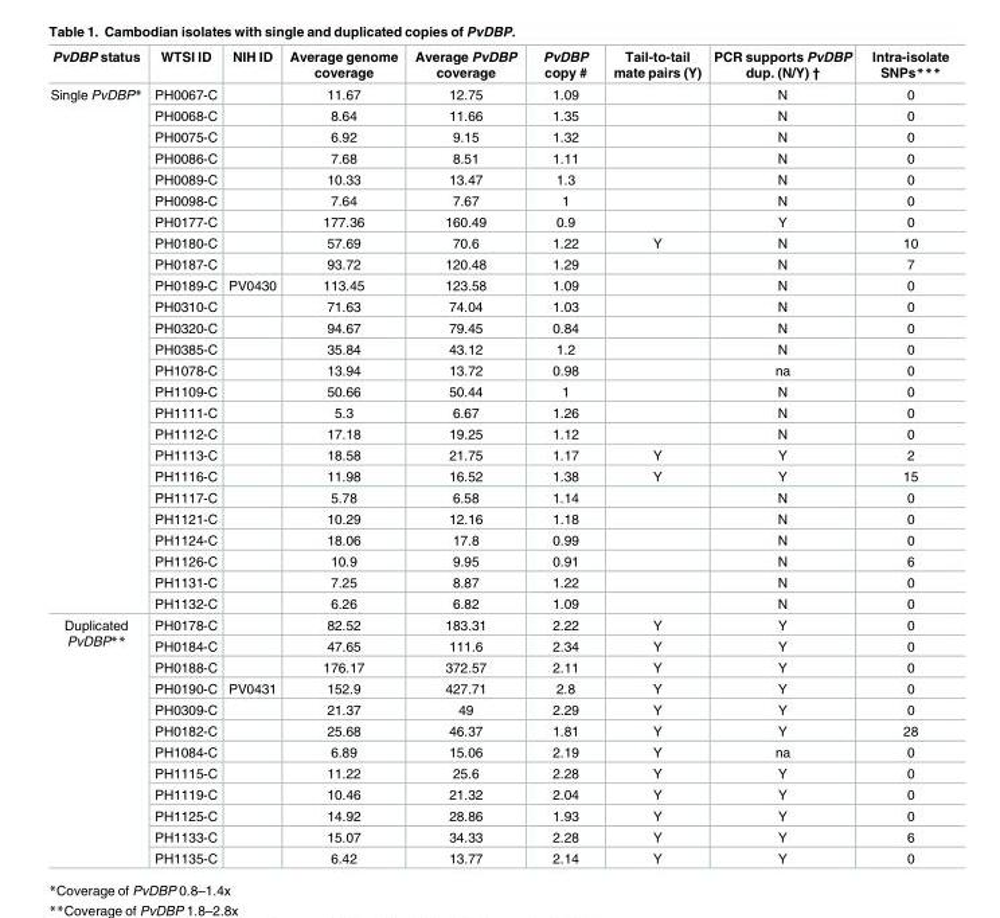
<table><thead><tr><td>PvDBP status</td><td>WTSI ID</td><td>NIH ID</td><td>Average genome coverage</td><td>Average PvDBP coverage</td><td>PvDBP copy #</td><td>Tail-to-tail mate pairs (Y)</td><td>PCR supports PvDBP dup. (N/Y) †</td><td>Intra-isolate SNPs***</td></tr></thead><tbody><tr><td rowspan="25">Single PvDBP*</td><td>PH0067-C</td><td></td><td>11.67</td><td>12.75</td><td>1.09</td><td></td><td>N</td><td>0</td></tr><tr><td>PH0068-C</td><td></td><td>8.64</td><td>11.66</td><td>1.35</td><td></td><td>N</td><td>0</td></tr><tr><td>PH0075-C</td><td></td><td>6.92</td><td>9.15</td><td>1.32</td><td></td><td>N</td><td>0</td></tr><tr><td>PH0086-C</td><td></td><td>7.68</td><td>8.51</td><td>1.11</td><td></td><td>N</td><td>0</td></tr><tr><td>PH0089-C</td><td></td><td>10.33</td><td>13.47</td><td>1.3</td><td></td><td>N</td><td>0</td></tr><tr><td>PH0098-C</td><td></td><td>7.64</td><td>7.67</td><td>1</td><td></td><td>N</td><td>0</td></tr><tr><td>PH0177-C</td><td></td><td>177.36</td><td>160.49</td><td>0.9</td><td></td><td>Y</td><td>0</td></tr><tr><td>PH0180-C</td><td></td><td>57.69</td><td>70.6</td><td>1.22</td><td>Y</td><td>N</td><td>10</td></tr><tr><td>PH0187-C</td><td></td><td>93.72</td><td>120.48</td><td>1.29</td><td></td><td>N</td><td>7</td></tr><tr><td>PH0189-C</td><td>PV0430</td><td>113.45</td><td>123.58</td><td>1.09</td><td></td><td>N</td><td>0</td></tr><tr><td>PH0310-C</td><td></td><td>71.63</td><td>74.04</td><td>1.03</td><td></td><td>N</td><td>0</td></tr><tr><td>PH0320-C</td><td></td><td>94.67</td><td>79.45</td><td>0.84</td><td></td><td>N</td><td>0</td></tr><tr><td>PH0385-C</td><td></td><td>35.84</td><td>43.12</td><td>1.2</td><td></td><td>N</td><td>0</td></tr><tr><td>PH1078-C</td><td></td><td>13.94</td><td>13.72</td><td>0.98</td><td></td><td>na</td><td>0</td></tr><tr><td>PH1109-C</td><td></td><td>50.66</td><td>50.44</td><td>1</td><td></td><td>N</td><td>0</td></tr><tr><td>PH1111-C</td><td></td><td>5.3</td><td>6.67</td><td>1.26</td><td></td><td>N</td><td>0</td></tr><tr><td>PH1112-C</td><td></td><td>17.18</td><td>19.25</td><td>1.12</td><td></td><td>N</td><td>0</td></tr><tr><td>PH1113-C</td><td></td><td>18.58</td><td>21.75</td><td>1.17</td><td>Y</td><td>Y</td><td>2</td></tr><tr><td>PH1116-C</td><td></td><td>11.98</td><td>16.52</td><td>1.38</td><td>Y</td><td>Y</td><td>15</td></tr><tr><td>PH1117-C</td><td></td><td>5.78</td><td>6.58</td><td>1.14</td><td></td><td>N</td><td>0</td></tr><tr><td>PH1121-C</td><td></td><td>10.29</td><td>12.16</td><td>1.18</td><td></td><td>N</td><td>0</td></tr><tr><td>PH1124-C</td><td></td><td>18.06</td><td>17.8</td><td>0.99</td><td></td><td>N</td><td>0</td></tr><tr><td>PH1126-C</td><td></td><td>10.9</td><td>9.95</td><td>0.91</td><td></td><td>N</td><td>6</td></tr><tr><td>PH1131-C</td><td></td><td>7.25</td><td>8.87</td><td>1.22</td><td></td><td>N</td><td>0</td></tr><tr><td>PH1132-C</td><td></td><td>6.26</td><td>6.82</td><td>1.09</td><td></td><td>N</td><td>0</td></tr><tr><td rowspan="12">Duplicated PvDBP**</td><td>PH0178-C</td><td></td><td>82.52</td><td>183.31</td><td>2.22</td><td>Y</td><td>Y</td><td>0</td></tr><tr><td>PH0184-C</td><td></td><td>47.65</td><td>111.6</td><td>2.34</td><td>Y</td><td>Y</td><td>0</td></tr><tr><td>PH0188-C</td><td></td><td>176.17</td><td>372.57</td><td>2.11</td><td>Y</td><td>Y</td><td>0</td></tr><tr><td>PH0190-C</td><td>PV0431</td><td>152.9</td><td>427.71</td><td>2.8</td><td>Y</td><td>Y</td><td>0</td></tr><tr><td>PH0309-C</td><td></td><td>21.37</td><td>49</td><td>2.29</td><td>Y</td><td>Y</td><td>0</td></tr><tr><td>PH0182-C</td><td></td><td>25.68</td><td>46.37</td><td>1.81</td><td>Y</td><td>Y</td><td>28</td></tr><tr><td>PH1084-C</td><td></td><td>6.89</td><td>15.06</td><td>2.19</td><td>Y</td><td>na</td><td>0</td></tr><tr><td>PH1115-C</td><td></td><td>11.22</td><td>25.6</td><td>2.28</td><td>Y</td><td>Y</td><td>0</td></tr><tr><td>PH1119-C</td><td></td><td>10.46</td><td>21.32</td><td>2.04</td><td>Y</td><td>Y</td><td>0</td></tr><tr><td>PH1125-C</td><td></td><td>14.92</td><td>28.86</td><td>1.93</td><td>Y</td><td>Y</td><td>0</td></tr><tr><td>PH1133-C</td><td></td><td>15.07</td><td>34.33</td><td>2.28</td><td>Y</td><td>Y</td><td>6</td></tr><tr><td>PH1135-C</td><td></td><td>6.42</td><td>13.77</td><td>2.14</td><td>Y</td><td>Y</td><td>0</td></tr></tbody></table>